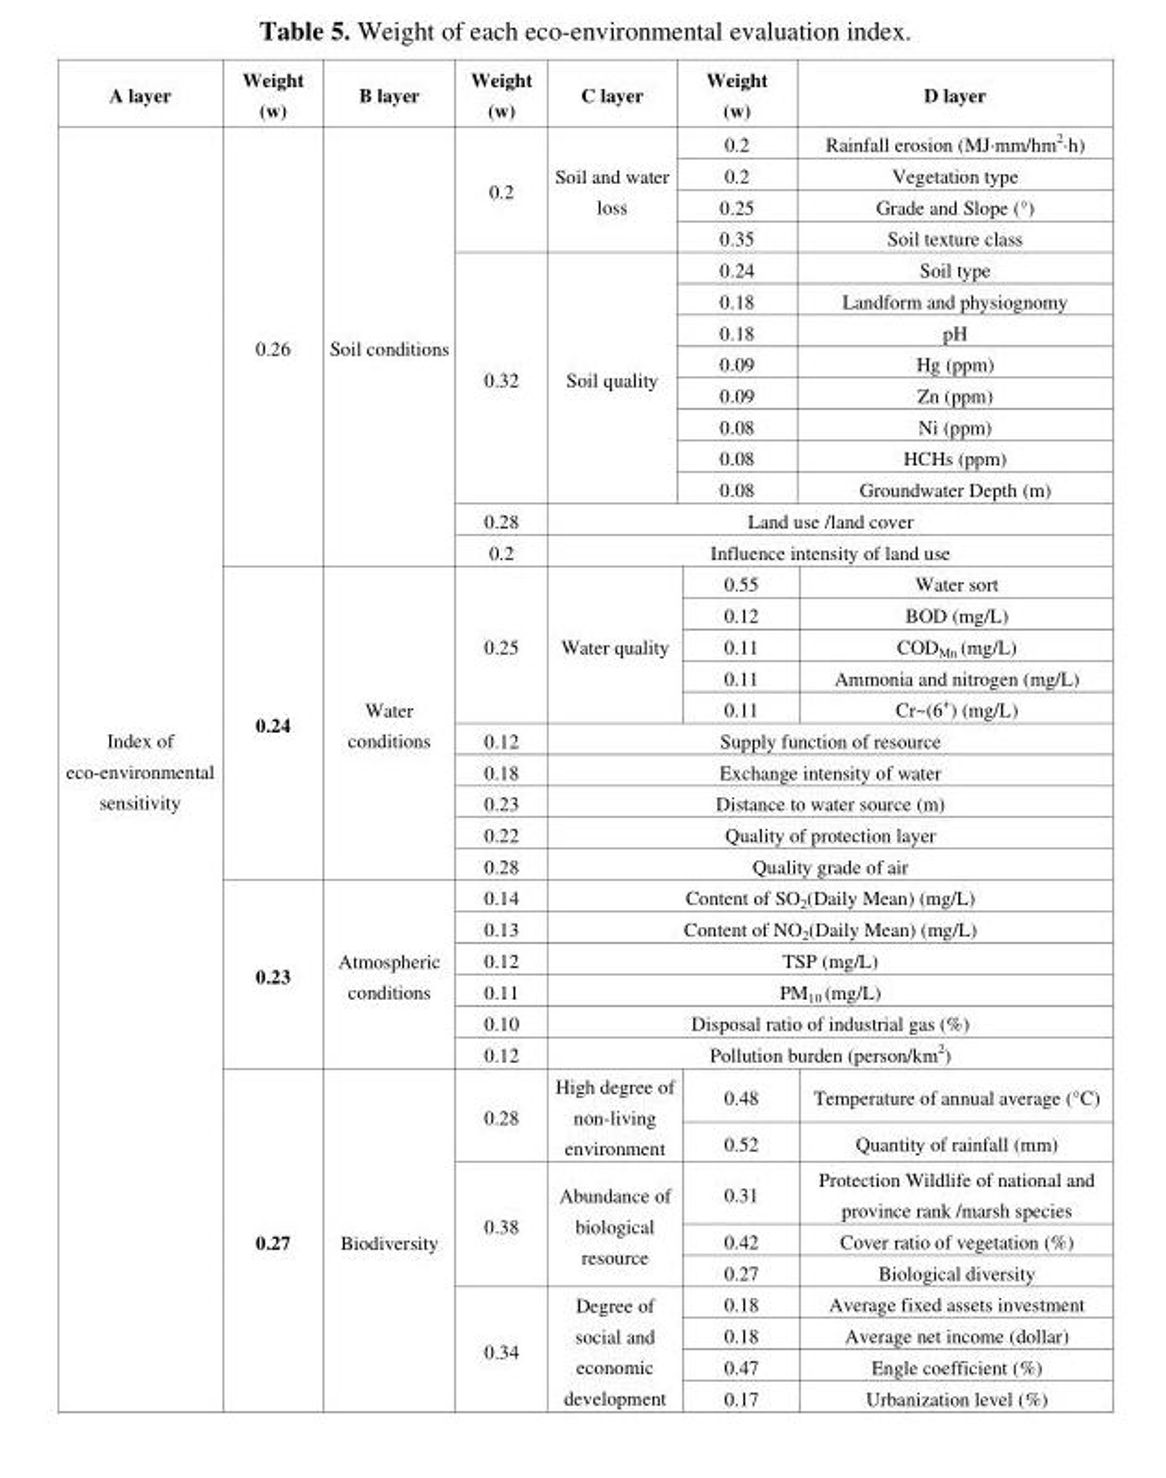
<table><thead><tr><td>A layer</td><td>Weight (w)</td><td>B layer</td><td>Weight (w)</td><td>C layer</td><td>Weight (w)</td><td>D layer</td></tr></thead><tbody><tr><td rowspan="39">Index of eco-environmental sensitivity</td><td rowspan="14">0.26</td><td rowspan="14">Soil conditions</td><td rowspan="4">0.2</td><td rowspan="4">Soil and water loss</td><td>0.2</td><td>Rainfall erosion (MJ·mm/hm<sup>2</sup>·h)</td></tr><tr><td>0.2</td><td>Vegetation type</td></tr><tr><td>0.25</td><td>Grade and Slope (°)</td></tr><tr><td>0.35</td><td>Soil texture class</td></tr><tr><td rowspan="8">0.32</td><td rowspan="8">Soil quality</td><td>0.24</td><td>Soil type</td></tr><tr><td>0.18</td><td>Landform and physiognomy</td></tr><tr><td>0.18</td><td>pH</td></tr><tr><td>0.09</td><td>Hg (ppm)</td></tr><tr><td>0.09</td><td>Zn (ppm)</td></tr><tr><td>0.08</td><td>Ni (ppm)</td></tr><tr><td>0.08</td><td>HCHs (ppm)</td></tr><tr><td>0.08</td><td>Groundwater Depth (m)</td></tr><tr><td>0.28</td><td colspan="3">Land use /land cover</td></tr><tr><td>0.2</td><td colspan="3">Influence intensity of land use</td></tr><tr><td rowspan="10">0.24</td><td rowspan="10">Water conditions</td><td rowspan="5">0.25</td><td rowspan="5">Water quality</td><td>0.55</td><td>Water sort</td></tr><tr><td>0.12</td><td>BOD (mg/L)</td></tr><tr><td>0.11</td><td>COD<sub>Mn</sub> (mg/L)</td></tr><tr><td>0.11</td><td>Ammonia and nitrogen (mg/L)</td></tr><tr><td>0.11</td><td>Cr~(6+) (mg/L)</td></tr><tr><td>0.12</td><td colspan="3">Supply function of resource</td></tr><tr><td>0.18</td><td colspan="3">Exchange intensity of water</td></tr><tr><td>0.23</td><td colspan="3">Distance to water source (m)</td></tr><tr><td>0.22</td><td colspan="3">Quality of protection layer</td></tr><tr><td>0.28</td><td colspan="3">Quality grade of air</td></tr><tr><td rowspan="6">0.23</td><td rowspan="6">Atmospheric conditions</td><td>0.14</td><td colspan="3">Content of SO<sub>2</sub>(Daily Mean) (mg/L)</td></tr><tr><td>0.13</td><td colspan="3">Content of NO<sub>2</sub>(Daily Mean) (mg/L)</td></tr><tr><td>0.12</td><td colspan="3">TSP (mg/L)</td></tr><tr><td>0.11</td><td colspan="3">PM<sub>10</sub> (mg/L)</td></tr><tr><td>0.10</td><td colspan="3">Disposal ratio of industrial gas (%)</td></tr><tr><td>0.12</td><td colspan="3">Pollution burden (person/km<sup>2</sup>)</td></tr><tr><td rowspan="9">0.27</td><td rowspan="9">Biodiversity</td><td rowspan="2">0.28</td><td rowspan="2">High degree of non-living environment</td><td>0.48</td><td>Temperature of annual average (°C)</td></tr><tr><td>0.52</td><td>Quantity of rainfall (mm)</td></tr><tr><td rowspan="3">0.38</td><td rowspan="3">Abundance of biological resource</td><td>0.31</td><td>Protection Wildlife of national and province rank /marsh species</td></tr><tr><td>0.42</td><td>Cover ratio of vegetation (%)</td></tr><tr><td>0.27</td><td>Biological diversity</td></tr><tr><td rowspan="4">0.34</td><td rowspan="4">Degree of social and economic development</td><td>0.18</td><td>Average fixed assets investment</td></tr><tr><td>0.18</td><td>Average net income (dollar)</td></tr><tr><td>0.47</td><td>Engle coefficient (%)</td></tr><tr><td>0.17</td><td>Urbanization level (%)</td></tr></tbody></table>